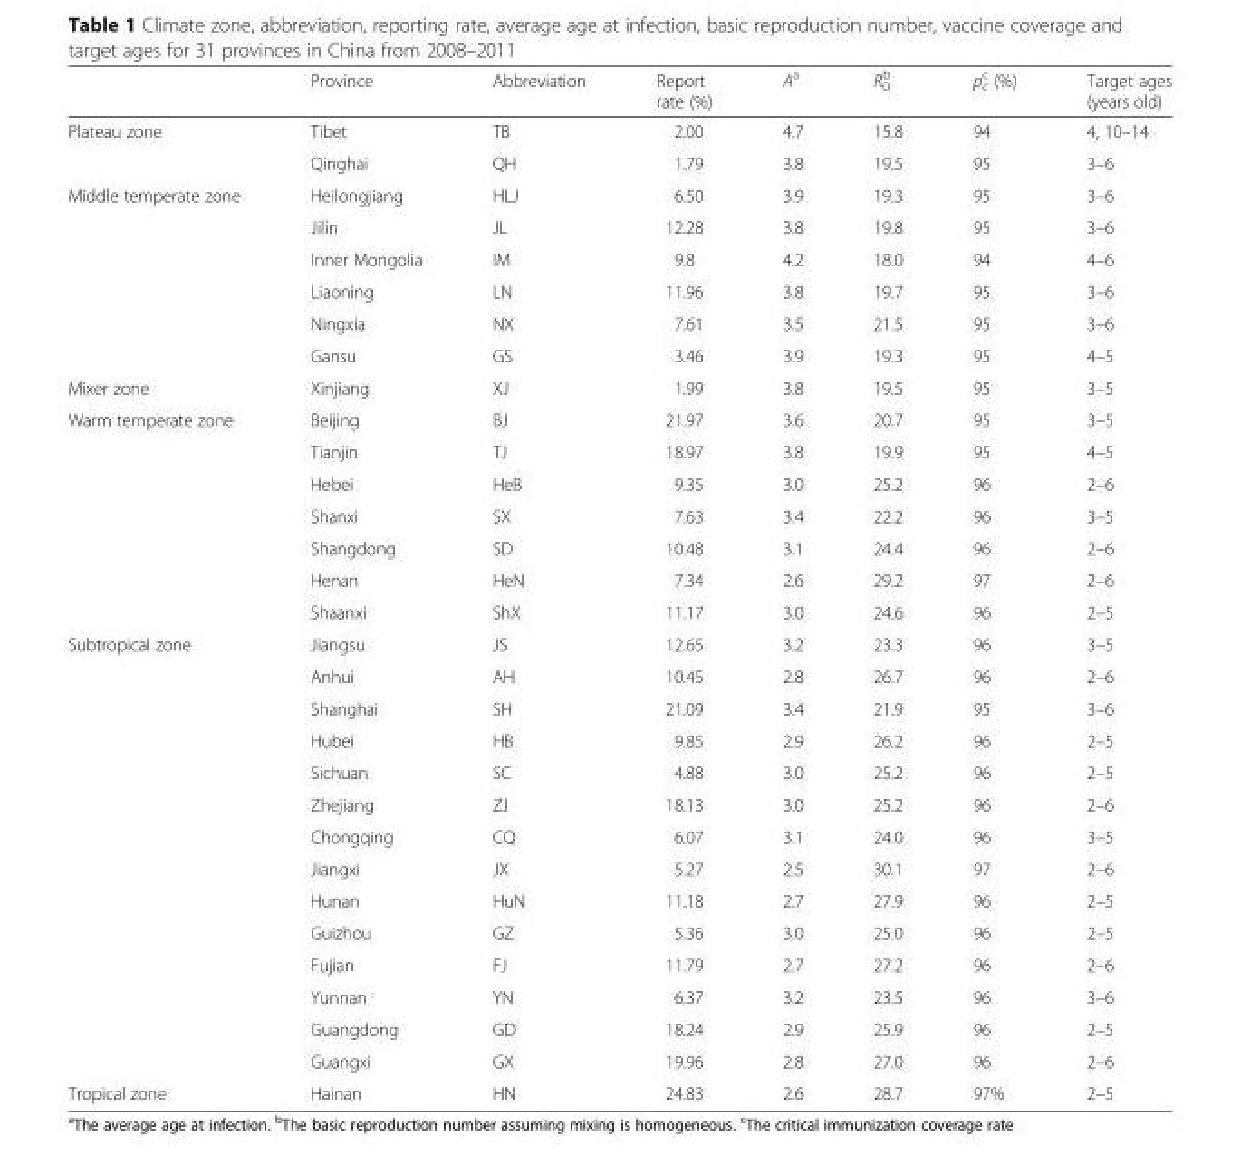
<table><thead><tr><td></td><td>Province</td><td>Abbreviation</td><td>Report rate (%)</td><td>A<sup>a</sup></td><td>R<sub>0</sub> <sup>b</sup></td><td>p<sub>c</sub> <sup>c</sup> (%)</td><td>Target ages (years old)</td></tr></thead><tbody><tr><td rowspan="2">Plateau zone</td><td>Tibet</td><td>TB</td><td>2.00</td><td>4.7</td><td>15.8</td><td>94</td><td>4, 10–14</td></tr><tr><td>Qinghai</td><td>QH</td><td>1.79</td><td>3.8</td><td>19.5</td><td>95</td><td>3–6</td></tr><tr><td rowspan="6">Middle temperate zone</td><td>Heilongjiang</td><td>HLJ</td><td>6.50</td><td>3.9</td><td>19.3</td><td>95</td><td>3–6</td></tr><tr><td>Jilin</td><td>JL</td><td>12.28</td><td>3.8</td><td>19.8</td><td>95</td><td>3–6</td></tr><tr><td>Inner Mongolia</td><td>IM</td><td>9.8</td><td>4.2</td><td>18.0</td><td>94</td><td>4–6</td></tr><tr><td>Liaoning</td><td>LN</td><td>11.96</td><td>3.8</td><td>19.7</td><td>95</td><td>3–6</td></tr><tr><td>Ningxia</td><td>NX</td><td>7.61</td><td>3.5</td><td>21.5</td><td>95</td><td>3–6</td></tr><tr><td>Gansu</td><td>GS</td><td>3.46</td><td>3.9</td><td>19.3</td><td>95</td><td>4–5</td></tr><tr><td>Mixer zone</td><td>Xinjiang</td><td>XJ</td><td>1.99</td><td>3.8</td><td>19.5</td><td>95</td><td>3–5</td></tr><tr><td rowspan="7">Warm temperate zone</td><td>Beijing</td><td>BJ</td><td>21.97</td><td>3.6</td><td>20.7</td><td>95</td><td>3–5</td></tr><tr><td>Tianjin</td><td>TJ</td><td>18.97</td><td>3.8</td><td>19.9</td><td>95</td><td>4–5</td></tr><tr><td>Hebei</td><td>HeB</td><td>9.35</td><td>3.0</td><td>25.2</td><td>96</td><td>2–6</td></tr><tr><td>Shanxi</td><td>SX</td><td>7.63</td><td>3.4</td><td>22.2</td><td>96</td><td>3–5</td></tr><tr><td>Shangdong</td><td>SD</td><td>10.48</td><td>3.1</td><td>24.4</td><td>96</td><td>2–6</td></tr><tr><td>Henan</td><td>HeN</td><td>7.34</td><td>2.6</td><td>29.2</td><td>97</td><td>2–6</td></tr><tr><td>Shaanxi</td><td>ShX</td><td>11.17</td><td>3.0</td><td>24.6</td><td>96</td><td>2–5</td></tr><tr><td rowspan="14">Subtropical zone</td><td>Jiangsu</td><td>JS</td><td>12.65</td><td>3.2</td><td>23.3</td><td>96</td><td>3–5</td></tr><tr><td>Anhui</td><td>AH</td><td>10.45</td><td>2.8</td><td>26.7</td><td>96</td><td>2–6</td></tr><tr><td>Shanghai</td><td>SH</td><td>21.09</td><td>3.4</td><td>21.9</td><td>95</td><td>3–6</td></tr><tr><td>Hubei</td><td>HB</td><td>9.85</td><td>2.9</td><td>26.2</td><td>96</td><td>2–5</td></tr><tr><td>Sichuan</td><td>SC</td><td>4.88</td><td>3.0</td><td>25.2</td><td>96</td><td>2–5</td></tr><tr><td>Zhejiang</td><td>ZJ</td><td>18.13</td><td>3.0</td><td>25.2</td><td>96</td><td>2–6</td></tr><tr><td>Chongqing</td><td>CQ</td><td>6.07</td><td>3.1</td><td>24.0</td><td>96</td><td>3–5</td></tr><tr><td>Jiangxi</td><td>JX</td><td>5.27</td><td>2.5</td><td>30.1</td><td>97</td><td>2–6</td></tr><tr><td>Hunan</td><td>HuN</td><td>11.18</td><td>2.7</td><td>27.9</td><td>96</td><td>2–5</td></tr><tr><td>Guizhou</td><td>GZ</td><td>5.36</td><td>3.0</td><td>25.0</td><td>96</td><td>2–5</td></tr><tr><td>Fujian</td><td>FJ</td><td>11.79</td><td>2.7</td><td>27.2</td><td>96</td><td>2–6</td></tr><tr><td>Yunnan</td><td>YN</td><td>6.37</td><td>3.2</td><td>23.5</td><td>96</td><td>3–6</td></tr><tr><td>Guangdong</td><td>GD</td><td>18.24</td><td>2.9</td><td>25.9</td><td>96</td><td>2–5</td></tr><tr><td>Guangxi</td><td>GX</td><td>19.96</td><td>2.8</td><td>27.0</td><td>96</td><td>2–6</td></tr><tr><td>Tropical zone</td><td>Hainan</td><td>HN</td><td>24.83</td><td>2.6</td><td>28.7</td><td>97%</td><td>2–5</td></tr></tbody></table>